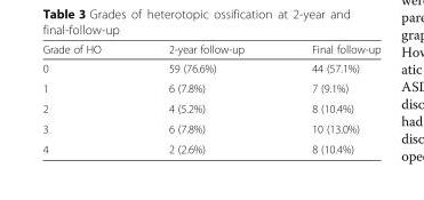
<table><thead><tr><td>Grade of HO</td><td>2-year follow-up</td><td>Final follow-up</td></tr></thead><tbody><tr><td>0</td><td>59 (76.6%)</td><td>44 (57.1%)</td></tr><tr><td>1</td><td>6 (7.8%)</td><td>7 (9.1%)</td></tr><tr><td>2</td><td>4 (5.2%)</td><td>8 (10.4%)</td></tr><tr><td>3</td><td>6 (7.8%)</td><td>10 (13.0%)</td></tr><tr><td>4</td><td>2 (2.6%)</td><td>8 (10.4%)</td></tr></tbody></table>